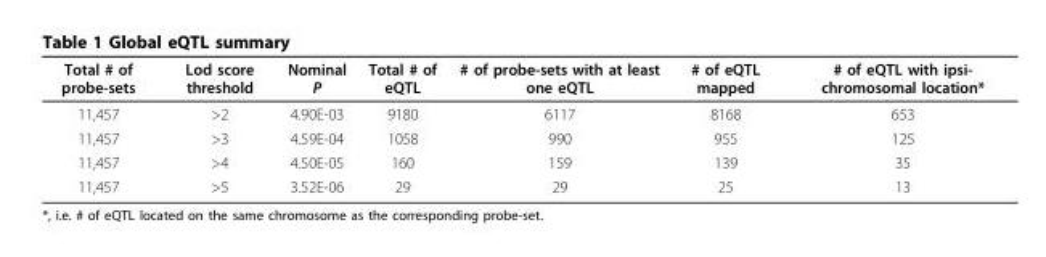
<table><thead><tr><td>Total # of probe-sets</td><td>Lod score threshold</td><td>Nominal P</td><td>Total # of eQTL</td><td># of probe-sets with at least one eQTL</td><td># of eQTL mapped</td><td># of eQTL with ipsi- chromosomal location*</td></tr></thead><tbody><tr><td>11,457</td><td>&gt;2</td><td>4.90E-03</td><td>9180</td><td>6117</td><td>8168</td><td>653</td></tr><tr><td>11,457</td><td>&gt;3</td><td>4.59E-04</td><td>1058</td><td>990</td><td>955</td><td>125</td></tr><tr><td>11,457</td><td>&gt;4</td><td>4.50E-05</td><td>160</td><td>159</td><td>139</td><td>35</td></tr><tr><td>11,457</td><td>&gt;5</td><td>3.52E-06</td><td>29</td><td>29</td><td>25</td><td>13</td></tr></tbody></table>